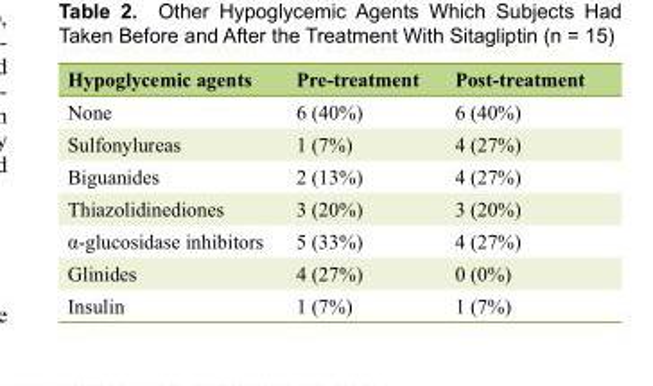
<table><thead><tr><td>Hypoglycemic agents</td><td>Pre-treatment</td><td>Post-treatment</td></tr></thead><tbody><tr><td>None</td><td>6 (40%)</td><td>6 (40%)</td></tr><tr><td>Sulfonylureas</td><td>1 (7%)</td><td>4 (27%)</td></tr><tr><td>Biguanides</td><td>2 (13%)</td><td>4 (27%)</td></tr><tr><td>Thiazolidinediones</td><td>3 (20%)</td><td>3 (20%)</td></tr><tr><td>α-glucosidase inhibitors</td><td>5 (33%)</td><td>4 (27%)</td></tr><tr><td>Glinides</td><td>4 (27%)</td><td>0 (0%)</td></tr><tr><td>Insulin</td><td>1 (7%)</td><td>1 (7%)</td></tr></tbody></table>